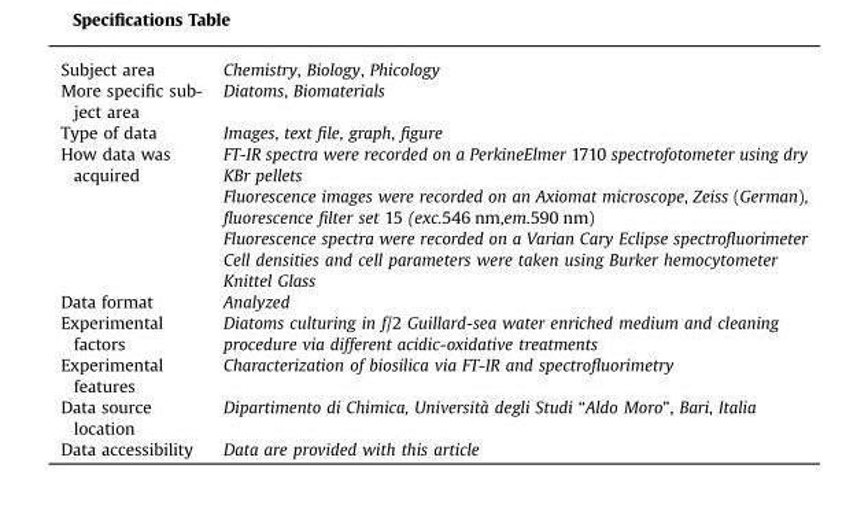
<table><tbody><tr><td>Subject area</td><td>Chemistry, Biology, Phicology</td></tr><tr><td>More specific sub- ject area</td><td>Diatoms, Biomaterials</td></tr><tr><td>Type of data</td><td>Images, text file, graph, figure</td></tr><tr><td rowspan="4">How data was acquired</td><td>FT-IR spectra were recorded on a PerkineElmer 1710 spectrofotometer using dry KBr pellets</td></tr><tr><td>Fluorescence images were recorded on an Axiomat microscope, Zeiss (German), fluorescence filter set 15 (exc.546 nm,em.590 nm)</td></tr><tr><td>Fluorescence spectra were recorded on a Varian Cary Eclipse spectrofluorimeter</td></tr><tr><td>Cell densities and cell parameters were taken using Burker hemocytometer Knittel Glass</td></tr><tr><td>Data format</td><td>Analyzed</td></tr><tr><td>Experimental factors</td><td>Diatoms culturing in f/2 Guillard-sea water enriched medium and cleaning procedure via different acidic-oxidative treatments</td></tr><tr><td>Experimental features</td><td>Characterization of biosilica via FT-IR and spectrofluorimetry</td></tr><tr><td>Data source location</td><td>Dipartimento di Chimica, Università degli Studi “Aldo Moro”, Bari, Italia</td></tr><tr><td>Data accessibility</td><td>Data are provided with this article</td></tr></tbody></table>